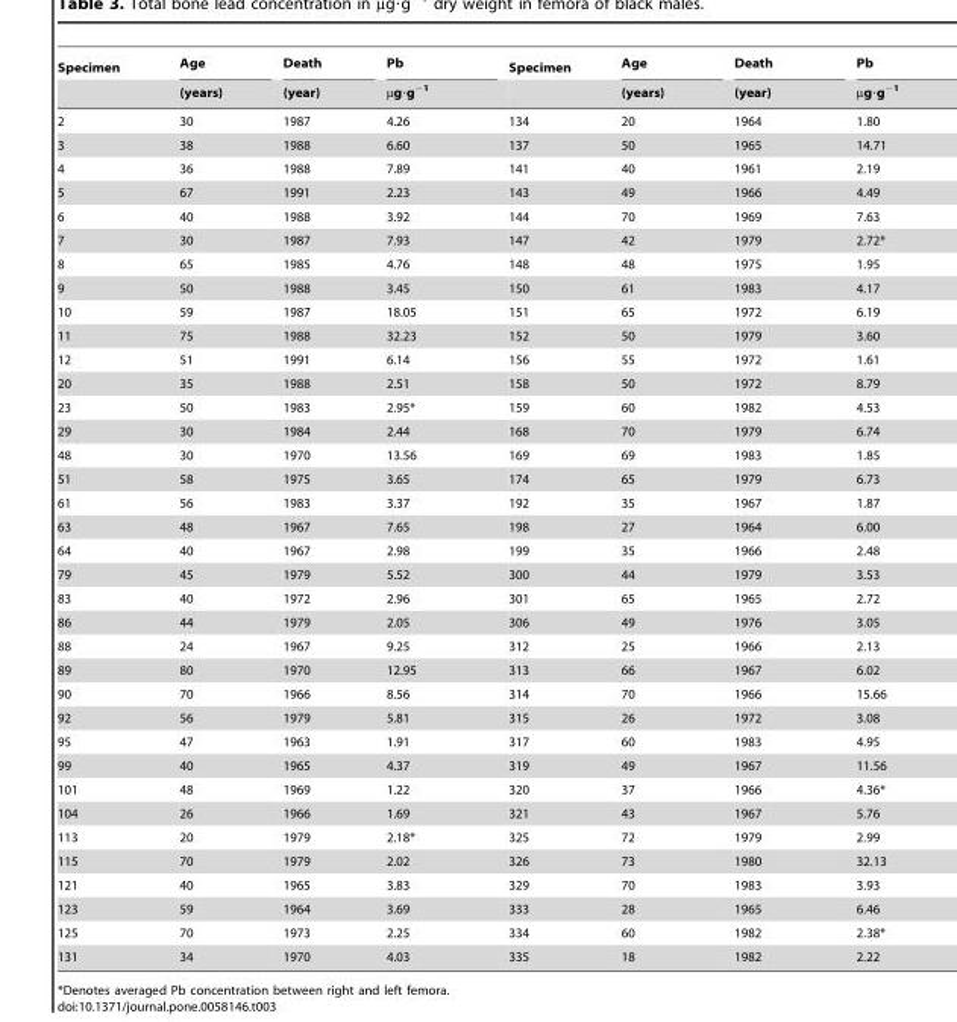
<table><thead><tr><td rowspan="2">Specimen</td><td rowspan="2">Age (years)</td><td rowspan="2">Death (year)</td><td rowspan="2">Pb µg·g<sup>−1</sup></td><td rowspan="2">Specimen</td><td rowspan="2">Age (years)</td><td rowspan="2">Death (year)</td><td rowspan="2">Pb µg·g<sup>−1</sup></td></tr><tr></tr></thead><tbody><tr><td>2</td><td>30</td><td>1987</td><td>4.26</td><td>134</td><td>20</td><td>1964</td><td>1.80</td></tr><tr><td>3</td><td>38</td><td>1988</td><td>6.60</td><td>137</td><td>50</td><td>1965</td><td>14.71</td></tr><tr><td>4</td><td>36</td><td>1988</td><td>7.89</td><td>141</td><td>40</td><td>1961</td><td>2.19</td></tr><tr><td>5</td><td>67</td><td>1991</td><td>2.23</td><td>143</td><td>49</td><td>1966</td><td>4.49</td></tr><tr><td>6</td><td>40</td><td>1988</td><td>3.92</td><td>144</td><td>70</td><td>1969</td><td>7.63</td></tr><tr><td>7</td><td>30</td><td>1987</td><td>7.93</td><td>147</td><td>42</td><td>1979</td><td>2.72*</td></tr><tr><td>8</td><td>65</td><td>1985</td><td>4.76</td><td>148</td><td>48</td><td>1975</td><td>1.95</td></tr><tr><td>9</td><td>50</td><td>1988</td><td>3.45</td><td>150</td><td>61</td><td>1983</td><td>4.17</td></tr><tr><td>10</td><td>59</td><td>1987</td><td>18.05</td><td>151</td><td>65</td><td>1972</td><td>6.19</td></tr><tr><td>11</td><td>75</td><td>1988</td><td>32.23</td><td>152</td><td>50</td><td>1979</td><td>3.60</td></tr><tr><td>12</td><td>51</td><td>1991</td><td>6.14</td><td>156</td><td>55</td><td>1972</td><td>1.61</td></tr><tr><td>20</td><td>35</td><td>1988</td><td>2.51</td><td>158</td><td>50</td><td>1972</td><td>8.79</td></tr><tr><td>23</td><td>50</td><td>1983</td><td>2.95*</td><td>159</td><td>60</td><td>1982</td><td>4.53</td></tr><tr><td>29</td><td>30</td><td>1984</td><td>2.44</td><td>168</td><td>70</td><td>1979</td><td>6.74</td></tr><tr><td>48</td><td>30</td><td>1970</td><td>13.56</td><td>169</td><td>69</td><td>1983</td><td>1.85</td></tr><tr><td>51</td><td>58</td><td>1975</td><td>3.65</td><td>174</td><td>65</td><td>1979</td><td>6.73</td></tr><tr><td>61</td><td>56</td><td>1983</td><td>3.37</td><td>192</td><td>35</td><td>1967</td><td>1.87</td></tr><tr><td>63</td><td>48</td><td>1967</td><td>7.65</td><td>198</td><td>27</td><td>1964</td><td>6.00</td></tr><tr><td>64</td><td>40</td><td>1967</td><td>2.98</td><td>199</td><td>35</td><td>1966</td><td>2.48</td></tr><tr><td>79</td><td>45</td><td>1979</td><td>5.52</td><td>300</td><td>44</td><td>1979</td><td>3.53</td></tr><tr><td>83</td><td>40</td><td>1972</td><td>2.96</td><td>301</td><td>65</td><td>1965</td><td>2.72</td></tr><tr><td>86</td><td>44</td><td>1979</td><td>2.05</td><td>306</td><td>49</td><td>1976</td><td>3.05</td></tr><tr><td>88</td><td>24</td><td>1967</td><td>9.25</td><td>312</td><td>25</td><td>1966</td><td>2.13</td></tr><tr><td>89</td><td>80</td><td>1970</td><td>12.95</td><td>313</td><td>66</td><td>1967</td><td>6.02</td></tr><tr><td>90</td><td>70</td><td>1966</td><td>8.56</td><td>314</td><td>70</td><td>1966</td><td>15.66</td></tr><tr><td>92</td><td>56</td><td>1979</td><td>5.81</td><td>315</td><td>26</td><td>1972</td><td>3.08</td></tr><tr><td>95</td><td>47</td><td>1963</td><td>1.91</td><td>317</td><td>60</td><td>1983</td><td>4.95</td></tr><tr><td>99</td><td>40</td><td>1965</td><td>4.37</td><td>319</td><td>49</td><td>1967</td><td>11.56</td></tr><tr><td>101</td><td>48</td><td>1969</td><td>1.22</td><td>320</td><td>37</td><td>1966</td><td>4.36*</td></tr><tr><td>104</td><td>26</td><td>1966</td><td>1.69</td><td>321</td><td>43</td><td>1967</td><td>5.76</td></tr><tr><td>113</td><td>20</td><td>1979</td><td>2.18*</td><td>325</td><td>72</td><td>1979</td><td>2.99</td></tr><tr><td>115</td><td>70</td><td>1979</td><td>2.02</td><td>326</td><td>73</td><td>1980</td><td>32.13</td></tr><tr><td>121</td><td>40</td><td>1965</td><td>3.83</td><td>329</td><td>70</td><td>1983</td><td>3.93</td></tr><tr><td>123</td><td>59</td><td>1964</td><td>3.69</td><td>333</td><td>28</td><td>1965</td><td>6.46</td></tr><tr><td>125</td><td>70</td><td>1973</td><td>2.25</td><td>334</td><td>60</td><td>1982</td><td>2.38*</td></tr><tr><td>131</td><td>34</td><td>1970</td><td>4.03</td><td>335</td><td>18</td><td>1982</td><td>2.22</td></tr></tbody></table>